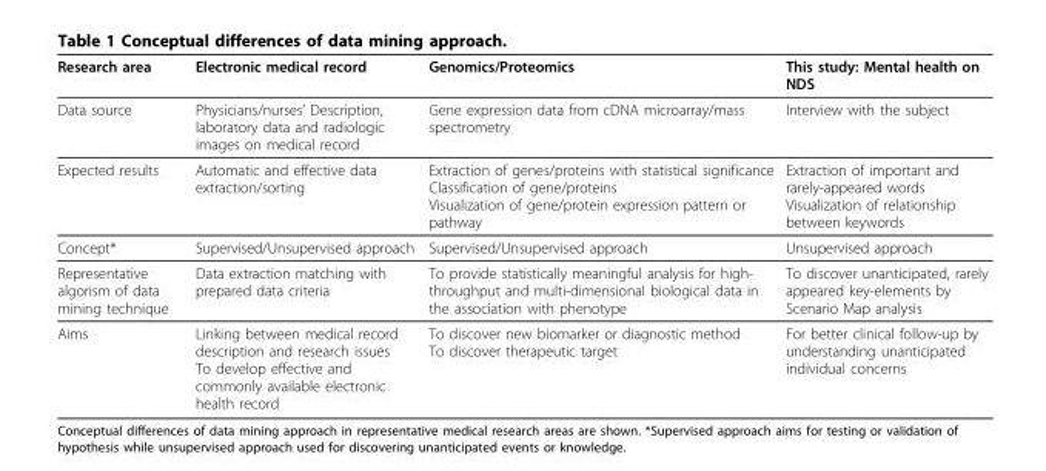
<table><thead><tr><td>Research area</td><td>Electronic medical record</td><td>Genomics/Proteomics</td><td>This study: Mental health on NDS</td></tr></thead><tbody><tr><td>Data source</td><td>Physicians/nurses’ Description, laboratory data and radiologic images on medical record</td><td>Gene expression data from cDNA microarray/mass spectrometry</td><td>Interview with the subject</td></tr><tr><td>Expected results</td><td>Automatic and effective data extraction/sorting</td><td>Extraction of genes/proteins with statistical significance Classification of gene/proteins Visualization of gene/protein expression pattern or pathway</td><td>Extraction of important and rarely-appeared words Visualization of relationship between keywords</td></tr><tr><td>Concept*</td><td>Supervised/Unsupervised approach</td><td>Supervised/Unsupervised approach</td><td>Unsupervised approach</td></tr><tr><td>Representative algorism of data mining technique</td><td>Data extraction matching with prepared data criteria</td><td>To provide statistically meaningful analysis for high- throughput and multi-dimensional biological data in the association with phenotype</td><td>To discover unanticipated, rarely appeared key-elements by Scenario Map analysis</td></tr><tr><td>Aims</td><td>Linking between medical record description and research issues To develop effective and commonly available electronic health record</td><td>To discover new biomarker or diagnostic method To discover therapeutic target</td><td>For better clinical follow-up by understanding unanticipated individual concerns</td></tr></tbody></table>